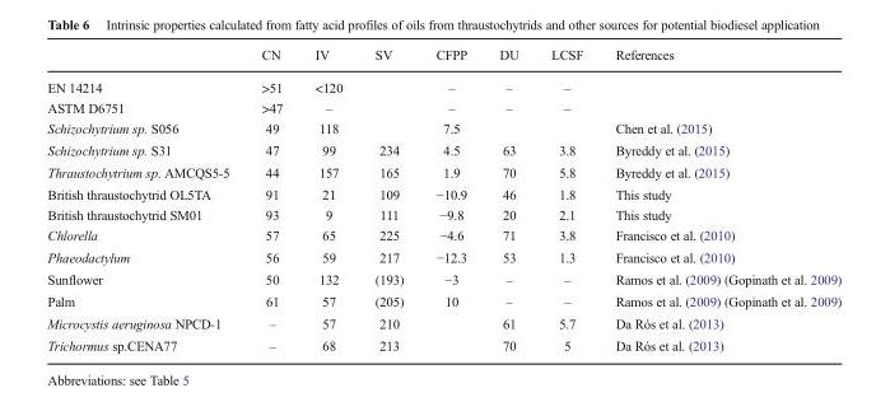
<table><thead><tr><td></td><td>CN</td><td>IV</td><td>SV</td><td>CFPP</td><td>DU</td><td>LCSF</td><td>References</td></tr></thead><tbody><tr><td>EN 14214</td><td>&gt;51</td><td>&lt;120</td><td></td><td>–</td><td>–</td><td>–</td><td></td></tr><tr><td>ASTM D6751</td><td>&gt;47</td><td>–</td><td></td><td>–</td><td>–</td><td>–</td><td></td></tr><tr><td>Schizochytrium sp. S056</td><td>49</td><td>118</td><td></td><td>7.5</td><td></td><td></td><td>Chen et al. (2015)</td></tr><tr><td>Schizochytrium sp. S31</td><td>47</td><td>99</td><td>234</td><td>4.5</td><td>63</td><td>3.8</td><td>Byreddy et al. (2015)</td></tr><tr><td>Thraustochytrium sp. AMCQS5-5</td><td>44</td><td>157</td><td>165</td><td>1.9</td><td>70</td><td>5.8</td><td>Byreddy et al. (2015)</td></tr><tr><td>British thraustochytrid OL5TA</td><td>91</td><td>21</td><td>109</td><td>−10.9</td><td>46</td><td>1.8</td><td>This study</td></tr><tr><td>British thraustochytrid SM01</td><td>93</td><td>9</td><td>111</td><td>−9.8</td><td>20</td><td>2.1</td><td>This study</td></tr><tr><td>Chlorella</td><td>57</td><td>65</td><td>225</td><td>−4.6</td><td>71</td><td>3.8</td><td>Francisco et al. (2010)</td></tr><tr><td>Phaeodactylum</td><td>56</td><td>59</td><td>217</td><td>−12.3</td><td>53</td><td>1.3</td><td>Francisco et al. (2010)</td></tr><tr><td>Sunflower</td><td>50</td><td>132</td><td>(193)</td><td>−3</td><td>–</td><td>–</td><td>Ramos et al. (2009) (Gopinath et al. 2009)</td></tr><tr><td>Palm</td><td>61</td><td>57</td><td>(205)</td><td>10</td><td>–</td><td>–</td><td>Ramos et al. (2009) (Gopinath et al. 2009)</td></tr><tr><td>Microcystis aeruginosa NPCD-1</td><td>–</td><td>57</td><td>210</td><td></td><td>61</td><td>5.7</td><td>Da Rós et al. (2013)</td></tr><tr><td>Trichormus sp.CENA77</td><td>–</td><td>68</td><td>213</td><td></td><td>70</td><td>5</td><td>Da Rós et al. (2013)</td></tr></tbody></table>